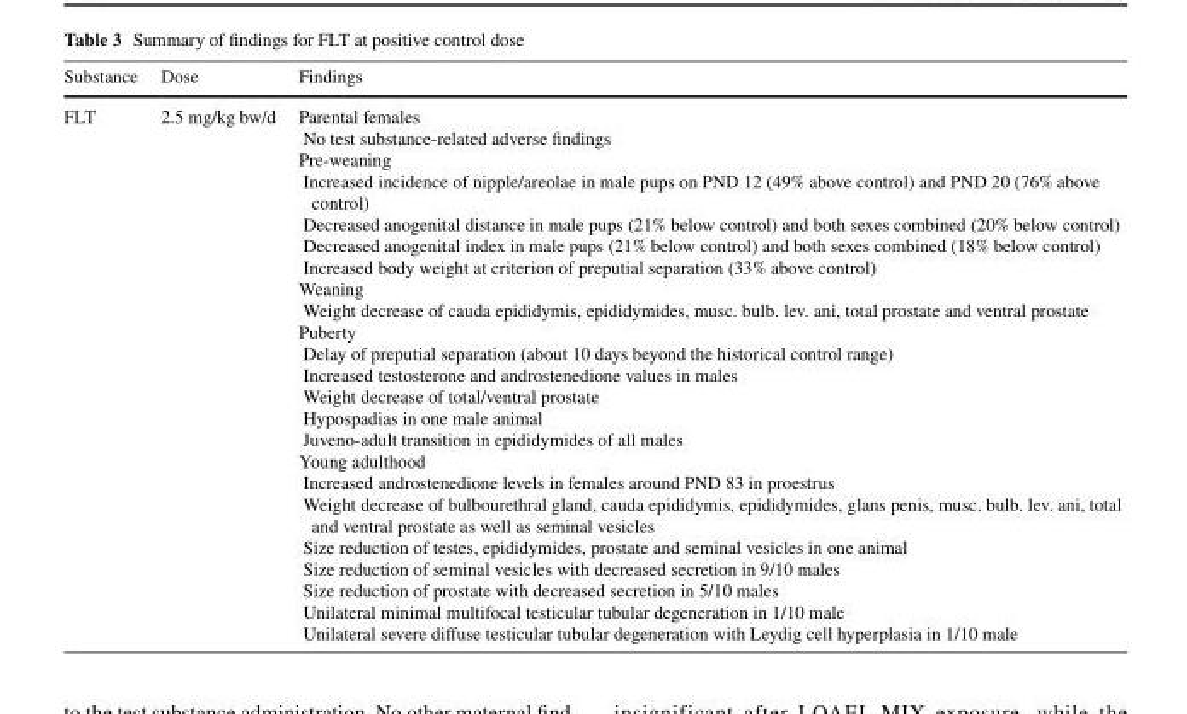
<table><thead><tr><td>Substance</td><td>Dose</td><td>Findings</td></tr></thead><tbody><tr><td>FLT</td><td>2.5 mg/kg bw/d</td><td>Parental females No test substance-related adverse findings Pre-weaning Increased incidence of nipple/areolae in male pups on PND 12 (49% above control) and PND 20 (76% above control) Decreased anogenital distance in male pups (21% below control) and both sexes combined (20% below control) Decreased anogenital index in male pups (21% below control) and both sexes combined (18% below control) Increased body weight at criterion of preputial separation (33% above control) Weaning Weight decrease of cauda epididymis, epididymides, musc. bulb. lev. ani, total prostate and ventral prostate Puberty Delay of preputial separation (about 10 days beyond the historical control range) Increased testosterone and androstenedione values in males Weight decrease of total/ventral prostate Hypospadias in one male animal Juveno-adult transition in epididymides of all males Young adulthood Increased androstenedione levels in females around PND 83 in proestrus Weight decrease of bulbourethral gland, cauda epididymis, epididymides, glans penis, musc. bulb. lev. ani, total and ventral prostate as well as seminal vesicles Size reduction of testes, epididymides, prostate and seminal vesicles in one animal Size reduction of seminal vesicles with decreased secretion in 9/10 males Size reduction of prostate with decreased secretion in 5/10 males Unilateral minimal multifocal testicular tubular degeneration in 1/10 male Unilateral severe diffuse testicular tubular degeneration with Leydig cell hyperplasia in 1/10 male</td></tr></tbody></table>